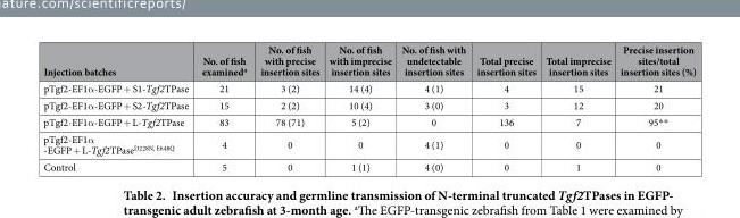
<table><thead><tr><td>Injection batches</td><td>No. of fish examined<sup>a</sup></td><td>No. of fish with precise insertion sites</td><td>No. of fish with imprecise insertion sites</td><td>No. of fish with undetectable insertion sites</td><td>Total precise insertion sites</td><td>Total imprecise insertion sites</td><td>Precise insertion sites/total insertion sites (%)</td></tr></thead><tbody><tr><td>pTgf2-EF1α -EGFP + S1-Tgf2TPase</td><td>21</td><td>3 (2)</td><td>14 (4)</td><td>4 (1)</td><td>4</td><td>15</td><td>21</td></tr><tr><td>pTgf2-EF1α -EGFP + S2-Tgf2TPase</td><td>15</td><td>2 (2)</td><td>10 (4)</td><td>3 (0)</td><td>3</td><td>12</td><td>20</td></tr><tr><td>pTgf2-EF1α -EGFP + L-Tgf2TPase</td><td>83</td><td>78 (71)</td><td>5 (2)</td><td>0</td><td>136</td><td>7</td><td>95* *</td></tr><tr><td>pTgf2-EF1α -EGFP + L-Tgf2TPase<sup>D228N, E648Q</sup></td><td>4</td><td>0</td><td>0</td><td>4 (1)</td><td>0</td><td>0</td><td>0</td></tr><tr><td>Control</td><td>5</td><td>0</td><td>1 (1)</td><td>4 (0)</td><td>0</td><td>1</td><td>0</td></tr></tbody></table>